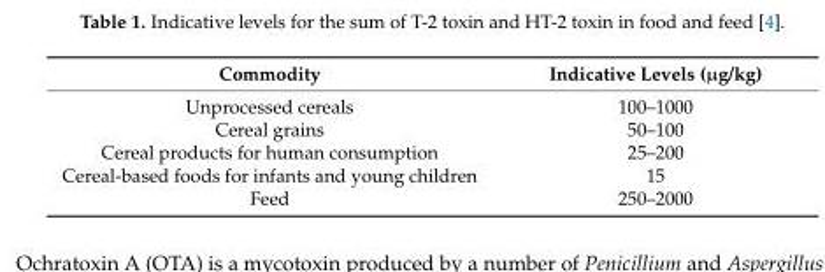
<table><thead><tr><td>Commodity</td><td>Indicative Levels (µg/kg)</td></tr></thead><tbody><tr><td>Unprocessed cereals</td><td>100–1000</td></tr><tr><td>Cereal grains</td><td>50–100</td></tr><tr><td>Cereal products for human consumption</td><td>25–200</td></tr><tr><td>Cereal-based foods for infants and young children</td><td>15</td></tr><tr><td>Feed</td><td>250–2000</td></tr></tbody></table>